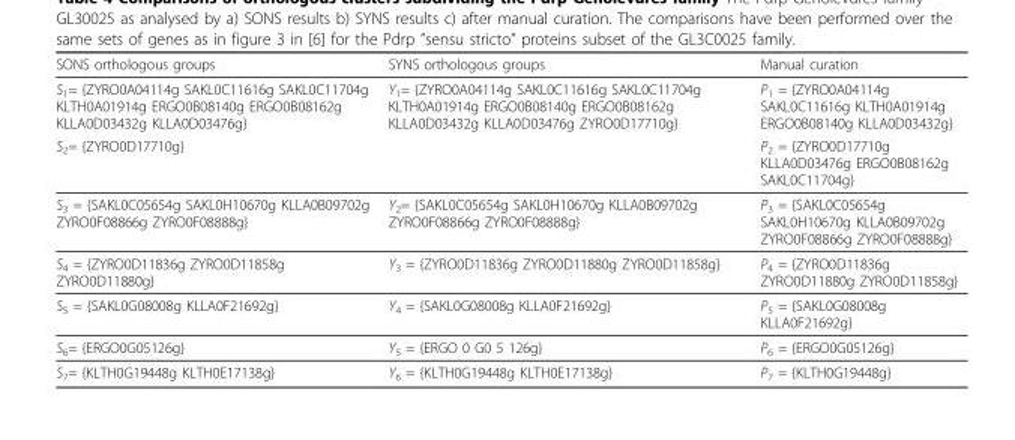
<table><thead><tr><td>SONS orthologous groups</td><td>SYNS orthologous groups</td><td>Manual curation</td></tr></thead><tbody><tr><td>S<sub>1</sub>= {ZYRO0A04114g SAKL0C11616g SAKL0C11704g KLTH0A01914g ERGO0B08140g ERGO0B08162g KLLA0D03432g KLLA0D03476g}</td><td>Y<sub>1</sub>= {ZYRO0A04114g SAKL0C11616g SAKL0C11704g KLTH0A01914g ERGO0B08140g ERGO0B08162g KLLA0D03432g KLLA0D03476g ZYRO0D17710g}</td><td>P<sub>1</sub> = {ZYRO0A04114g SAKL0C11616g KLTH0A01914g ERGO0B08140g KLLA0D03432g}</td></tr><tr><td>S<sub>2</sub>= {ZYRO0D17710g}</td><td></td><td>P<sub>2</sub> = {ZYRO0D17710g KLLA0D03476g ERGO0B08162g SAKL0C11704g}</td></tr><tr><td>S<sub>3</sub> = {SAKL0C05654g SAKL0H10670g KLLA0B09702g ZYRO0F08866g ZYRO0F08888g}</td><td>Y<sub>2</sub>= {SAKL0C05654g SAKL0H10670g KLLA0B09702g ZYRO0F08866g ZYRO0F08888g}</td><td>P<sub>3</sub> = {SAKL0C05654g SAKL0H10670g KLLA0B09702g ZYRO0F08866g ZYRO0F08888g}</td></tr><tr><td>S<sub>4</sub> = {ZYRO0D11836g ZYRO0D11858g ZYRO0D11880g}</td><td>Y<sub>3</sub> = {ZYRO0D11836g ZYRO0D11880g ZYRO0D11858g}</td><td>P<sub>4</sub> = {ZYRO0D11836g ZYRO0D11880g ZYRO0D11858g}</td></tr><tr><td>S<sub>5</sub> = {SAKL0G08008g KLLA0F21692g}</td><td>Y<sub>4</sub> = {SAKL0G08008g KLLA0F21692g}</td><td>P<sub>5</sub> = {SAKL0G08008g KLLA0F21692g}</td></tr><tr><td>S<sub>6</sub>= {ERGO0G05126g}</td><td>Y<sub>5</sub> = {ERGO 0 G0 5 126g}</td><td>P<sub>6</sub> = {ERGO0G05126g}</td></tr><tr><td>S<sub>7</sub>= {KLTH0G19448g KLTH0E17138g}</td><td>Y<sub>6</sub> = {KLTH0G19448g KLTH0E17138g}</td><td>P<sub>7</sub> = {KLTH0G19448g}</td></tr></tbody></table>